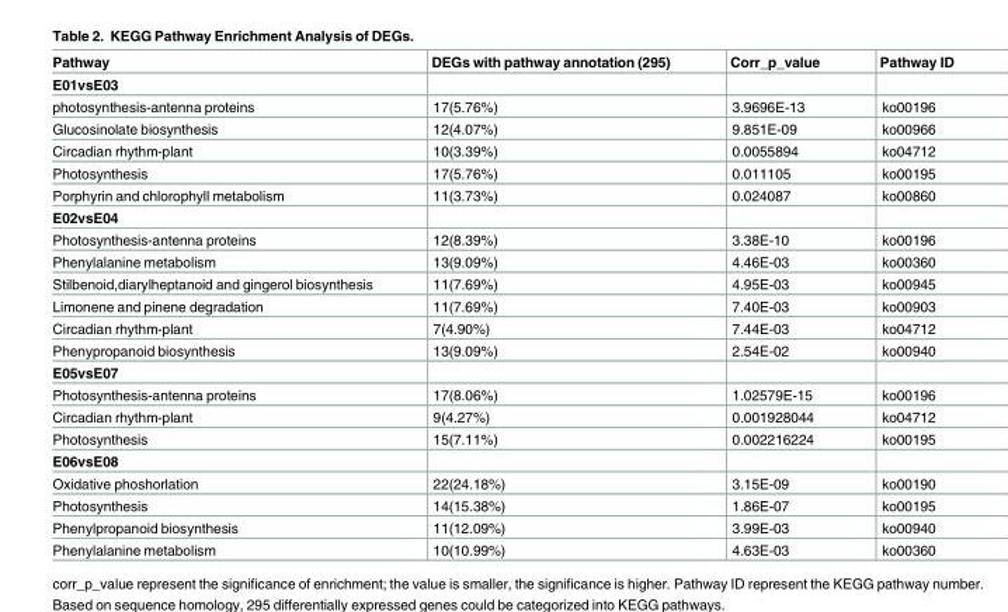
<table><thead><tr><td>Pathway</td><td>DEGs with pathway annotation (295)</td><td>Corr_p_value</td><td>Pathway ID</td></tr></thead><tbody><tr><td colspan="4">E01vsE03</td></tr><tr><td>photosynthesis-antenna proteins</td><td>17(5.76%)</td><td>3.9696E-13</td><td>ko00196</td></tr><tr><td>Glucosinolate biosynthesis</td><td>12(4.07%)</td><td>9.851E-09</td><td>ko00966</td></tr><tr><td>Circadian rhythm-plant</td><td>10(3.39%)</td><td>0.0055894</td><td>ko04712</td></tr><tr><td>Photosynthesis</td><td>17(5.76%)</td><td>0.011105</td><td>ko00195</td></tr><tr><td>Porphyrin and chlorophyll metabolism</td><td>11(3.73%)</td><td>0.024087</td><td>ko00860</td></tr><tr><td colspan="4">E02vsE04</td></tr><tr><td>Photosynthesis-antenna proteins</td><td>12(8.39%)</td><td>3.38E-10</td><td>ko00196</td></tr><tr><td>Phenylalanine metabolism</td><td>13(9.09%)</td><td>4.46E-03</td><td>ko00360</td></tr><tr><td>Stilbenoid,diarylheptanoid and gingerol biosynthesis</td><td>11(7.69%)</td><td>4.95E-03</td><td>ko00945</td></tr><tr><td>Limonene and pinene degradation</td><td>11(7.69%)</td><td>7.40E-03</td><td>ko00903</td></tr><tr><td>Circadian rhythm-plant</td><td>7(4.90%)</td><td>7.44E-03</td><td>ko04712</td></tr><tr><td>Phenypropanoid biosynthesis</td><td>13(9.09%)</td><td>2.54E-02</td><td>ko00940</td></tr><tr><td colspan="4">E05vsE07</td></tr><tr><td>Photosynthesis-antenna proteins</td><td>17(8.06%)</td><td>1.02579E-15</td><td>ko00196</td></tr><tr><td>Circadian rhythm-plant</td><td>9(4.27%)</td><td>0.001928044</td><td>ko04712</td></tr><tr><td>Photosynthesis</td><td>15(7.11%)</td><td>0.002216224</td><td>ko00195</td></tr><tr><td colspan="4">E06vsE08</td></tr><tr><td>Oxidative phoshorlation</td><td>22(24.18%)</td><td>3.15E-09</td><td>ko00190</td></tr><tr><td>Photosynthesis</td><td>14(15.38%)</td><td>1.86E-07</td><td>ko00195</td></tr><tr><td>Phenylpropanoid biosynthesis</td><td>11(12.09%)</td><td>3.99E-03</td><td>ko00940</td></tr><tr><td>Phenylalanine metabolism</td><td>10(10.99%)</td><td>4.63E-03</td><td>ko00360</td></tr></tbody></table>